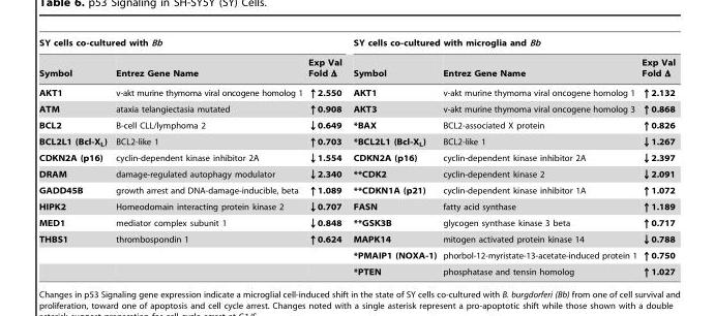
<table><thead><tr><td colspan="3">SY cells co-cultured with Bb</td><td colspan="3">SY cells co-cultured with microglia and Bb</td></tr><tr><td>Symbol</td><td>Entrez Gene Name</td><td>Exp Val Fold Δ</td><td>Symbol</td><td>Entrez Gene Name</td><td>Exp Val Fold Δ</td></tr></thead><tbody><tr><td>AKT1</td><td>v-akt murine thymoma viral oncogene homolog 1</td><td>↑2.550</td><td>AKT1</td><td>v-akt murine thymoma viral oncogene homolog 1</td><td>↑2.132</td></tr><tr><td>ATM</td><td>ataxia telangiectasia mutated</td><td>↑0.908</td><td>AKT3</td><td>v-akt murine thymoma viral oncogene homolog 3</td><td>↑0.868</td></tr><tr><td>BCL2</td><td>B-cell CLL/lymphoma 2</td><td>↓0.649</td><td>*BAX</td><td>BCL2-associated X protein</td><td>↑0.826</td></tr><tr><td>BCL2L1 (Bcl-X<sub>L</sub>)</td><td>BCL2-like 1</td><td>↑0.703</td><td>*BCL2L1 (Bcl-X<sub>L</sub>)</td><td>BCL2-like 1</td><td>↓1.267</td></tr><tr><td>CDKN2A (p16)</td><td>cyclin-dependent kinase inhibitor 2A</td><td>↓1.554</td><td>CDKN2A (p16)</td><td>cyclin-dependent kinase inhibitor 2A</td><td>↓2.397</td></tr><tr><td>DRAM</td><td>damage-regulated autophagy modulator</td><td>↓2.340</td><td>**CDK2</td><td>cyclin-dependent kinase 2</td><td>↓2.091</td></tr><tr><td>GADD45B</td><td>growth arrest and DNA-damage-inducible, beta</td><td>↑1.089</td><td>**CDKN1A (p21)</td><td>cyclin-dependent kinase inhibitor 1A</td><td>↑1.072</td></tr><tr><td>HIPK2</td><td>Homeodomain interacting protein kinase 2</td><td>↓0.707</td><td>FASN</td><td>fatty acid synthase</td><td>↑1.189</td></tr><tr><td>MED1</td><td>mediator complex subunit 1</td><td>↓0.848</td><td>**GSK3B</td><td>glycogen synthase kinase 3 beta</td><td>↑0.717</td></tr><tr><td rowspan="3">THBS1</td><td>thrombospondin 1</td><td>↑0.624</td><td>MAPK14</td><td>mitogen activated protein kinase 14</td><td>↓0.788</td></tr><tr><td></td><td></td><td>*PMAIP1 (NOXA-1)</td><td>phorbol-12-myristate-13-acetate-induced protein 1</td><td>↑0.750</td></tr><tr><td></td><td></td><td>*PTEN</td><td>phosphatase and tensin homolog</td><td>↑1.027</td></tr></tbody></table>